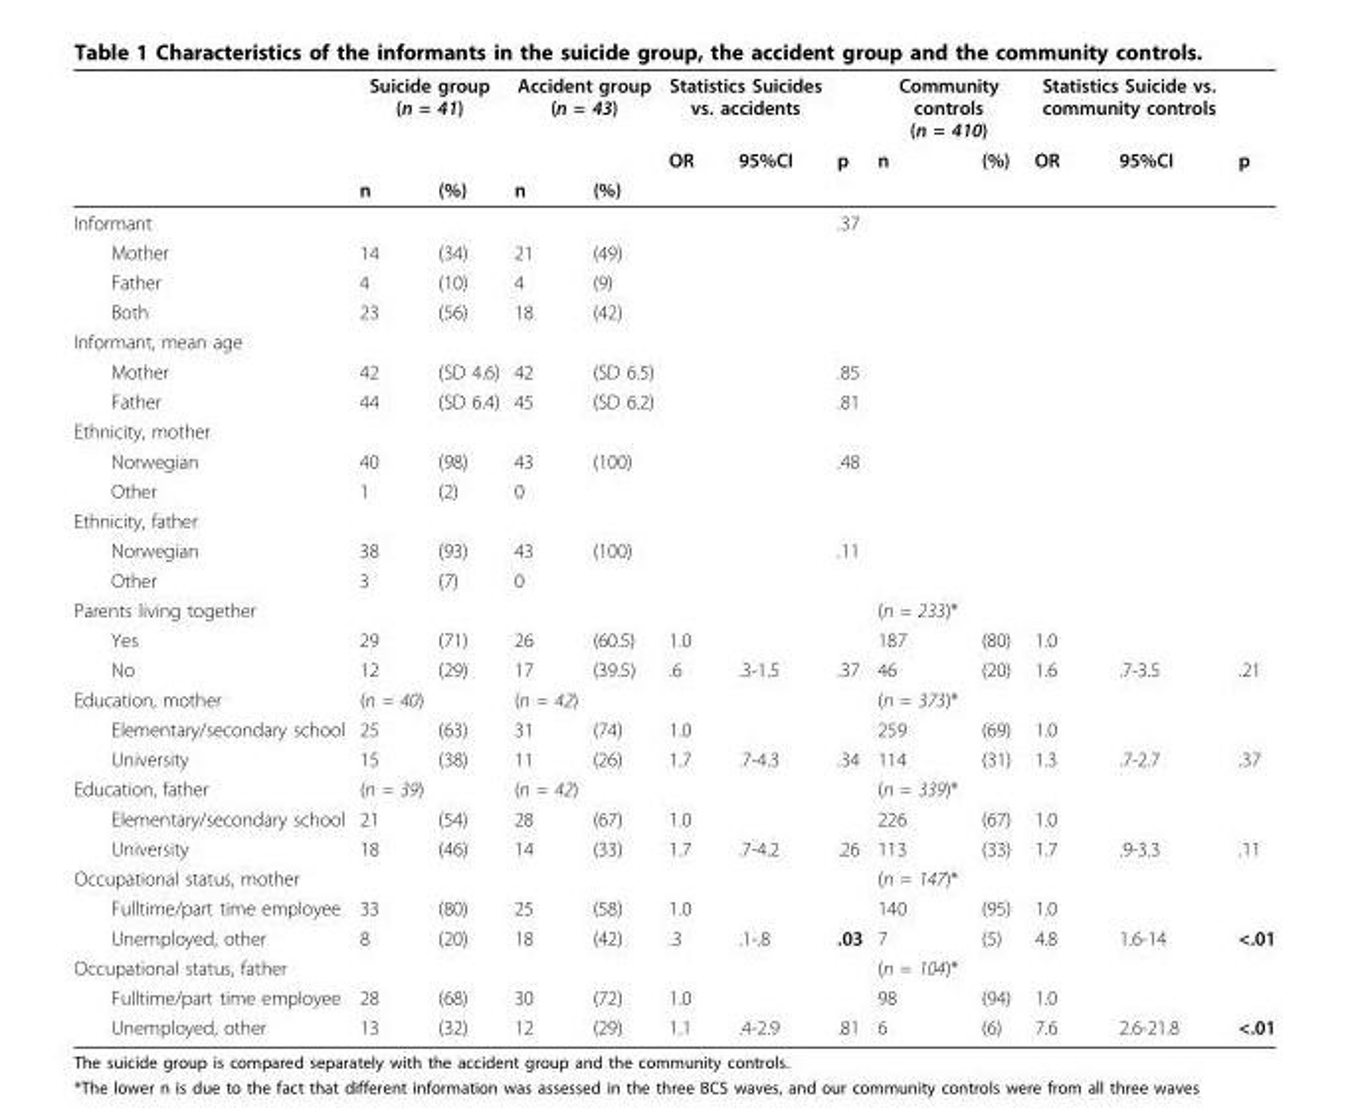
<table><thead><tr><td rowspan="3"></td><td colspan="2">Suicide group (n = 41)</td><td colspan="2">Accident group (n = 43)</td><td colspan="2">Statistics Suicides vs. accidents</td><td rowspan="3">p</td><td colspan="2">Community controls (n = 410)</td><td colspan="2">Statistics Suicide vs. community controls</td><td rowspan="3">p</td></tr><tr><td rowspan="2">n</td><td rowspan="2">(%)</td><td rowspan="2">n</td><td rowspan="2">(%)</td><td rowspan="2">OR</td><td rowspan="2">95%CI</td><td rowspan="2">n</td><td rowspan="2">(%)</td><td rowspan="2">OR</td><td rowspan="2">95%CI</td></tr><tr></tr></thead><tbody><tr><td>Informant</td><td></td><td></td><td></td><td></td><td></td><td></td><td>.37</td><td></td><td></td><td></td><td></td><td></td></tr><tr><td>Mother</td><td>14</td><td>(34)</td><td>21</td><td>(49)</td><td></td><td></td><td></td><td></td><td></td><td></td><td></td><td></td></tr><tr><td>Father</td><td>4</td><td>(10)</td><td>4</td><td>(9)</td><td></td><td></td><td></td><td></td><td></td><td></td><td></td><td></td></tr><tr><td>Both</td><td>23</td><td>(56)</td><td>18</td><td>(42)</td><td></td><td></td><td></td><td></td><td></td><td></td><td></td><td></td></tr><tr><td colspan="13">Informant, mean age</td></tr><tr><td>Mother</td><td>42</td><td>(SD 4.6)</td><td>42</td><td>(SD 6.5)</td><td></td><td></td><td>.85</td><td></td><td></td><td></td><td></td><td></td></tr><tr><td>Father</td><td>44</td><td>(SD 6.4)</td><td>45</td><td>(SD 6.2)</td><td></td><td></td><td>.81</td><td></td><td></td><td></td><td></td><td></td></tr><tr><td colspan="13">Ethnicity, mother</td></tr><tr><td>Norwegian</td><td>40</td><td>(98)</td><td>43</td><td>(100)</td><td></td><td></td><td>.48</td><td></td><td></td><td></td><td></td><td></td></tr><tr><td>Other</td><td>1</td><td>(2)</td><td>0</td><td></td><td></td><td></td><td></td><td></td><td></td><td></td><td></td><td></td></tr><tr><td colspan="13">Ethnicity, father</td></tr><tr><td>Norwegian</td><td>38</td><td>(93)</td><td>43</td><td>(100)</td><td></td><td></td><td>.11</td><td></td><td></td><td></td><td></td><td></td></tr><tr><td>Other</td><td>3</td><td>(7)</td><td>0</td><td></td><td></td><td></td><td></td><td></td><td></td><td></td><td></td><td></td></tr><tr><td>Parents living together</td><td></td><td></td><td></td><td></td><td></td><td></td><td></td><td>(n = 233)*</td><td></td><td></td><td></td><td></td></tr><tr><td>Yes</td><td>29</td><td>(71)</td><td>26</td><td>(60.5)</td><td>1.0</td><td></td><td></td><td>187</td><td>(80)</td><td>1.0</td><td></td><td></td></tr><tr><td>No</td><td>12</td><td>(29)</td><td>17</td><td>(39.5)</td><td>.6</td><td>.3-1.5</td><td>.37</td><td>46</td><td>(20)</td><td>1.6</td><td>.7-3.5</td><td>.21</td></tr><tr><td>Education, mother</td><td>(n = 40)</td><td></td><td>(n = 42)</td><td></td><td></td><td></td><td></td><td>(n = 373)*</td><td></td><td></td><td></td><td></td></tr><tr><td>Elementary/secondary school</td><td>25</td><td>(63)</td><td>31</td><td>(74)</td><td>1.0</td><td></td><td></td><td>259</td><td>(69)</td><td>1.0</td><td></td><td></td></tr><tr><td>University</td><td>15</td><td>(38)</td><td>11</td><td>(26)</td><td>1.7</td><td>.7-4.3</td><td>.34</td><td>114</td><td>(31)</td><td>1.3</td><td>.7-2.7</td><td>.37</td></tr><tr><td>Education, father</td><td>(n = 39)</td><td></td><td>(n = 42)</td><td></td><td></td><td></td><td></td><td>(n = 339)*</td><td></td><td></td><td></td><td></td></tr><tr><td>Elementary/secondary school</td><td>21</td><td>(54)</td><td>28</td><td>(67)</td><td>1.0</td><td></td><td></td><td>226</td><td>(67)</td><td>1.0</td><td></td><td></td></tr><tr><td>University</td><td>18</td><td>(46)</td><td>14</td><td>(33)</td><td>1.7</td><td>.7-4.2</td><td>.26</td><td>113</td><td>(33)</td><td>1.7</td><td>.9-3.3</td><td>.11</td></tr><tr><td>Occupational status, mother</td><td></td><td></td><td></td><td></td><td></td><td></td><td></td><td>(n = 147)*</td><td></td><td></td><td></td><td></td></tr><tr><td>Fulltime/part time employee</td><td>33</td><td>(80)</td><td>25</td><td>(58)</td><td>1.0</td><td></td><td></td><td>140</td><td>(95)</td><td>1.0</td><td></td><td></td></tr><tr><td>Unemployed, other</td><td>8</td><td>(20)</td><td>18</td><td>(42)</td><td>.3</td><td>.1-.8</td><td>.03</td><td>7</td><td>(5)</td><td>4.8</td><td>1.6-14</td><td>&lt;.01</td></tr><tr><td>Occupational status, father</td><td></td><td></td><td></td><td></td><td></td><td></td><td></td><td>(n = 104)*</td><td></td><td></td><td></td><td></td></tr><tr><td>Fulltime/part time employee</td><td>28</td><td>(68)</td><td>30</td><td>(72)</td><td>1.0</td><td></td><td></td><td>98</td><td>(94)</td><td>1.0</td><td></td><td></td></tr><tr><td>Unemployed, other</td><td>13</td><td>(32)</td><td>12</td><td>(29)</td><td>1.1</td><td>.4-2.9</td><td>.81</td><td>6</td><td>(6)</td><td>7.6</td><td>2.6-21.8</td><td>&lt;.01</td></tr></tbody></table>